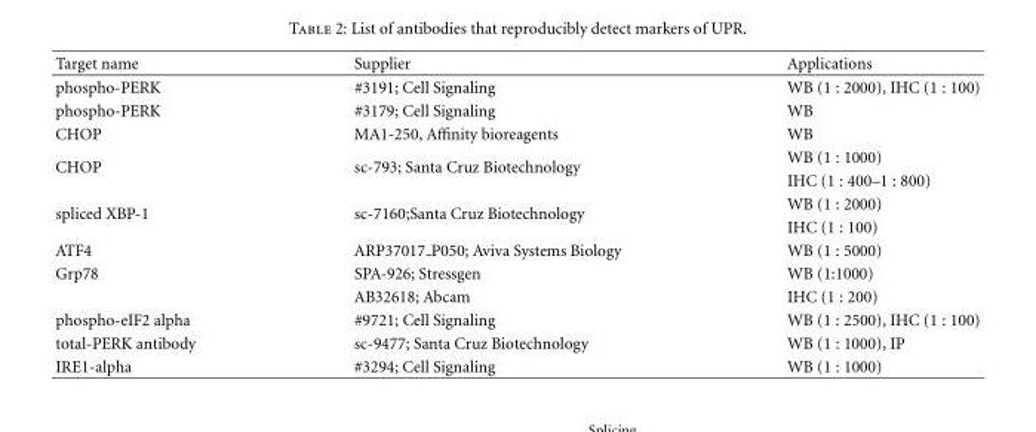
<table><thead><tr><td>Target name</td><td>Supplier</td><td>Applications</td></tr></thead><tbody><tr><td>phospho-PERK</td><td>#3191; Cell Signaling</td><td>WB (1 : 2000), IHC (1 : 100)</td></tr><tr><td>phospho-PERK</td><td>#3179; Cell Signaling</td><td>WB</td></tr><tr><td>CHOP</td><td>MA1-250, Affinity bioreagents</td><td>WB</td></tr><tr><td rowspan="2">CHOP</td><td rowspan="2">sc-793; Santa Cruz Biotechnology</td><td>WB (1 : 1000)</td></tr><tr><td>IHC (1 : 400–1 : 800)</td></tr><tr><td rowspan="2">spliced XBP-1</td><td rowspan="2">sc-7160;Santa Cruz Biotechnology</td><td>WB (1 : 2000)</td></tr><tr><td>IHC (1 : 100)</td></tr><tr><td>ATF4</td><td>ARP37017 P050; Aviva Systems Biology</td><td>WB (1 : 5000)</td></tr><tr><td rowspan="2">Grp78</td><td>SPA-926; Stressgen</td><td>WB (1:1000)</td></tr><tr><td>AB32618; Abcam</td><td>IHC (1 : 200)</td></tr><tr><td>phospho-eIF2 alpha</td><td>#9721; Cell Signaling</td><td>WB (1 : 2500), IHC (1 : 100)</td></tr><tr><td>total-PERK antibody</td><td>sc-9477; Santa Cruz Biotechnology</td><td>WB (1 : 1000), IP</td></tr><tr><td>IRE1-alpha</td><td>#3294; Cell Signaling</td><td>WB (1 : 1000)</td></tr></tbody></table>